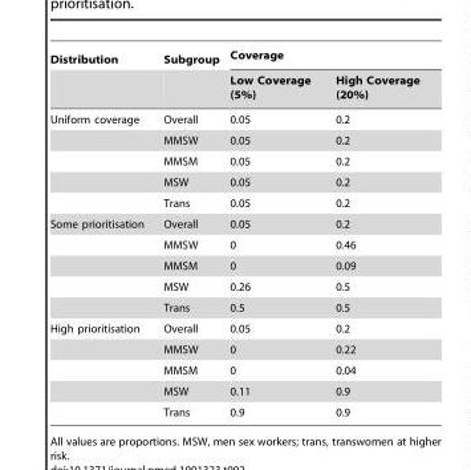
<table><thead><tr><td rowspan="2">Distribution</td><td rowspan="2">Subgroup</td><td colspan="2">Coverage</td></tr><tr><td>Low Coverage (5%)</td><td>High Coverage (20%)</td></tr></thead><tbody><tr><td rowspan="5">Uniform coverage</td><td>Overall</td><td>0.05</td><td>0.2</td></tr><tr><td>MMSW</td><td>0.05</td><td>0.2</td></tr><tr><td>MMSM</td><td>0.05</td><td>0.2</td></tr><tr><td>MSW</td><td>0.05</td><td>0.2</td></tr><tr><td>Trans</td><td>0.05</td><td>0.2</td></tr><tr><td rowspan="5">Some prioritisation</td><td>Overall</td><td>0.05</td><td>0.2</td></tr><tr><td>MMSW</td><td>0</td><td>0.46</td></tr><tr><td>MMSM</td><td>0</td><td>0.09</td></tr><tr><td>MSW</td><td>0.26</td><td>0.5</td></tr><tr><td>Trans</td><td>0.5</td><td>0.5</td></tr><tr><td rowspan="5">High prioritisation</td><td>Overall</td><td>0.05</td><td>0.2</td></tr><tr><td>MMSW</td><td>0</td><td>0.22</td></tr><tr><td>MMSM</td><td>0</td><td>0.04</td></tr><tr><td>MSW</td><td>0.11</td><td>0.9</td></tr><tr><td>Trans</td><td>0.9</td><td>0.9</td></tr></tbody></table>